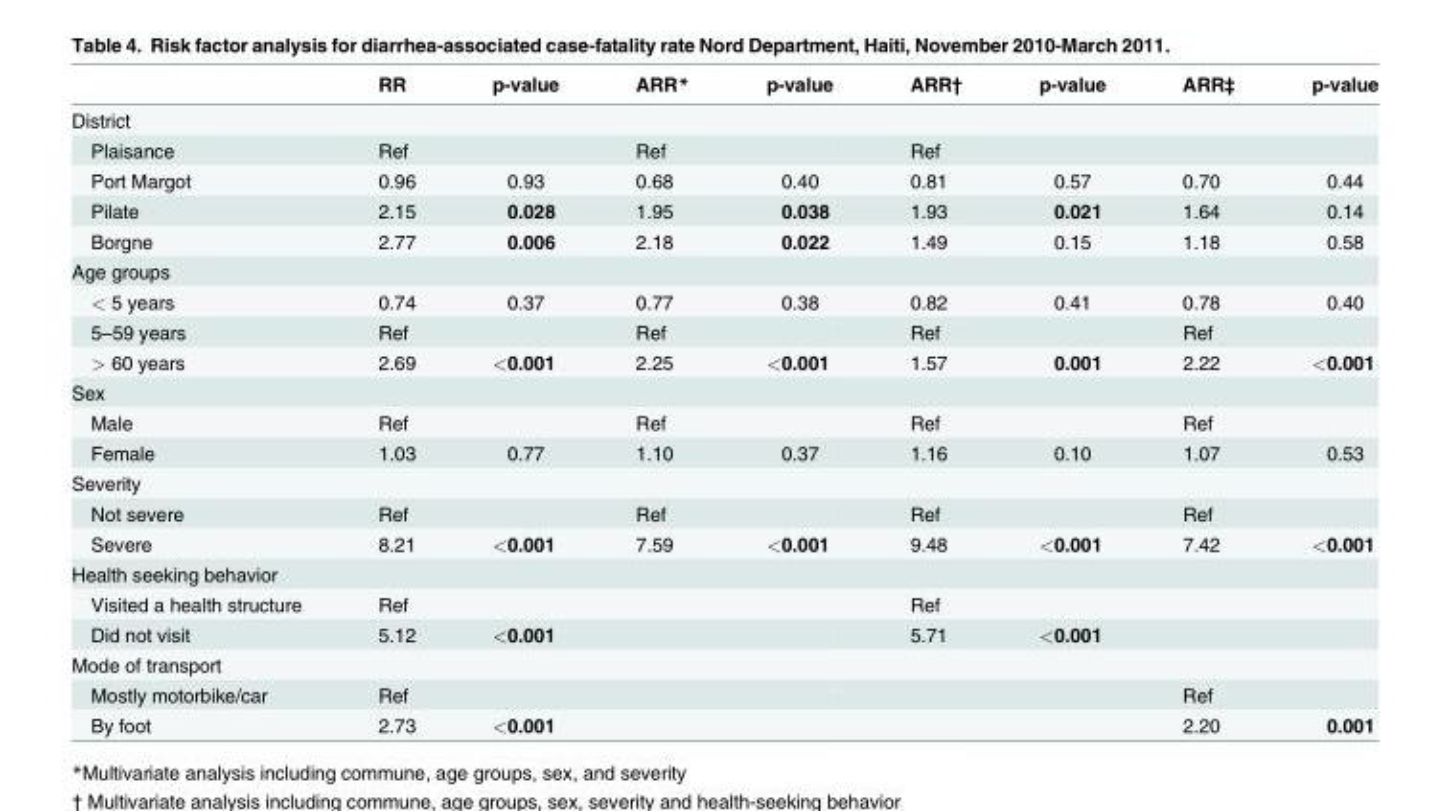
<table><thead><tr><td></td><td>RR</td><td>p-value</td><td>ARR*</td><td>p-value</td><td>ARR†</td><td>p-value</td><td>ARR‡</td><td>p-value</td></tr></thead><tbody><tr><td colspan="9">District</td></tr><tr><td>Plaisance</td><td>Ref</td><td></td><td>Ref</td><td></td><td>Ref</td><td></td><td></td><td></td></tr><tr><td>Port Margot</td><td>0.96</td><td>0.93</td><td>0.68</td><td>0.40</td><td>0.81</td><td>0.57</td><td>0.70</td><td>0.44</td></tr><tr><td>Pilate</td><td>2.15</td><td>0.028</td><td>1.95</td><td>0.038</td><td>1.93</td><td>0.021</td><td>1.64</td><td>0.14</td></tr><tr><td>Borgne</td><td>2.77</td><td>0.006</td><td>2.18</td><td>0.022</td><td>1.49</td><td>0.15</td><td>1.18</td><td>0.58</td></tr><tr><td colspan="9">Age groups</td></tr><tr><td>&lt; 5 years</td><td>0.74</td><td>0.37</td><td>0.77</td><td>0.38</td><td>0.82</td><td>0.41</td><td>0.78</td><td>0.40</td></tr><tr><td>5–59 years</td><td>Ref</td><td></td><td>Ref</td><td></td><td>Ref</td><td></td><td>Ref</td><td></td></tr><tr><td>&gt; 60 years</td><td>2.69</td><td>&lt;0.001</td><td>2.25</td><td>&lt;0.001</td><td>1.57</td><td>0.001</td><td>2.22</td><td>&lt;0.001</td></tr><tr><td colspan="9">Sex</td></tr><tr><td>Male</td><td>Ref</td><td></td><td>Ref</td><td></td><td>Ref</td><td></td><td>Ref</td><td></td></tr><tr><td>Female</td><td>1.03</td><td>0.77</td><td>1.10</td><td>0.37</td><td>1.16</td><td>0.10</td><td>1.07</td><td>0.53</td></tr><tr><td colspan="9">Severity</td></tr><tr><td>Not severe</td><td>Ref</td><td></td><td>Ref</td><td></td><td>Ref</td><td></td><td>Ref</td><td></td></tr><tr><td>Severe</td><td>8.21</td><td>&lt;0.001</td><td>7.59</td><td>&lt;0.001</td><td>9.48</td><td>&lt;0.001</td><td>7.42</td><td>&lt;0.001</td></tr><tr><td colspan="9">Health seeking behavior</td></tr><tr><td>Visited a health structure</td><td>Ref</td><td></td><td></td><td></td><td>Ref</td><td></td><td></td><td></td></tr><tr><td>Did not visit</td><td>5.12</td><td>&lt;0.001</td><td></td><td></td><td>5.71</td><td>&lt;0.001</td><td></td><td></td></tr><tr><td colspan="9">Mode of transport</td></tr><tr><td>Mostly motorbike/car</td><td>Ref</td><td></td><td></td><td></td><td></td><td></td><td>Ref</td><td></td></tr><tr><td>By foot</td><td>2.73</td><td>&lt;0.001</td><td></td><td></td><td></td><td></td><td>2.20</td><td>0.001</td></tr></tbody></table>